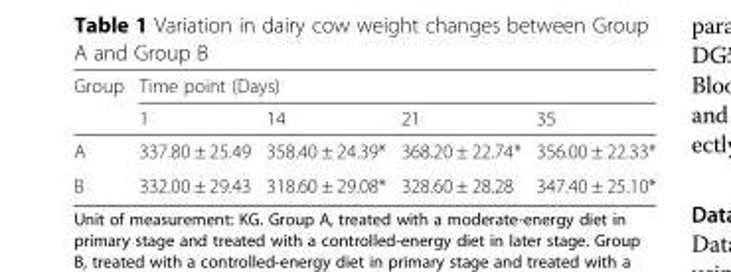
<table><thead><tr><td rowspan="2">Group</td><td colspan="4">Time point (Days)</td></tr><tr><td>1</td><td>14</td><td>21</td><td>35</td></tr></thead><tbody><tr><td>A</td><td>337.80 ± 25.49</td><td>358.40 ± 24.39*</td><td>368.20 ± 22.74*</td><td>356.00 ± 22.33*</td></tr><tr><td>B</td><td>332.00 ± 29.43</td><td>318.60 ± 29.08*</td><td>328.60 ± 28.28</td><td>347.40 ± 25.10*</td></tr></tbody></table>